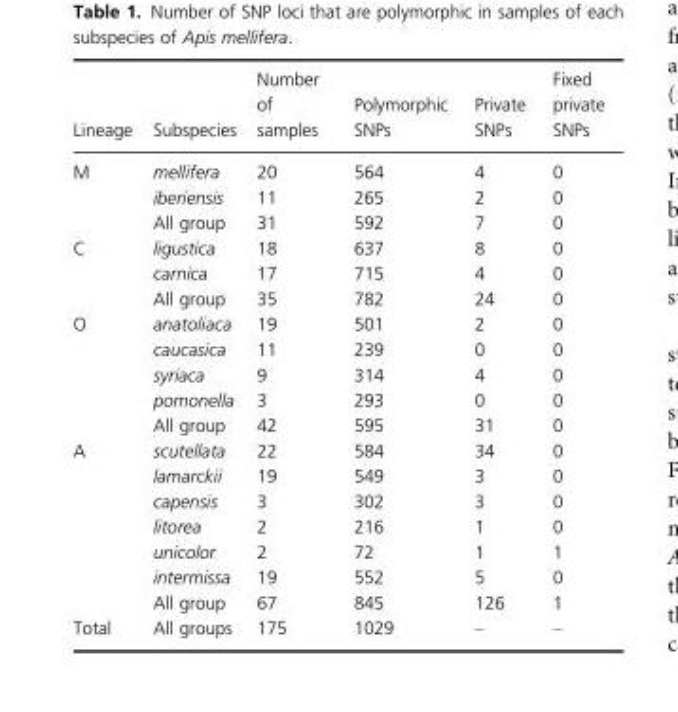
<table><thead><tr><td>Lineage</td><td>Subspecies</td><td>Number of samples</td><td>Polymorphic SNPs</td><td>Private SNPs</td><td>Fixed private SNPs</td></tr></thead><tbody><tr><td rowspan="3">M</td><td>mellifera</td><td>20</td><td>564</td><td>4</td><td>0</td></tr><tr><td>iberiensis</td><td>11</td><td>265</td><td>2</td><td>0</td></tr><tr><td>All group</td><td>31</td><td>592</td><td>7</td><td>0</td></tr><tr><td rowspan="3">C</td><td>ligustica</td><td>18</td><td>637</td><td>8</td><td>0</td></tr><tr><td>carnica</td><td>17</td><td>715</td><td>4</td><td>0</td></tr><tr><td>All group</td><td>35</td><td>782</td><td>24</td><td>0</td></tr><tr><td rowspan="5">O</td><td>anatoliaca</td><td>19</td><td>501</td><td>2</td><td>0</td></tr><tr><td>caucasica</td><td>11</td><td>239</td><td>0</td><td>0</td></tr><tr><td>syriaca</td><td>9</td><td>314</td><td>4</td><td>0</td></tr><tr><td>pomonella</td><td>3</td><td>293</td><td>0</td><td>0</td></tr><tr><td>All group</td><td>42</td><td>595</td><td>31</td><td>0</td></tr><tr><td rowspan="7">A</td><td>scutellata</td><td>22</td><td>584</td><td>34</td><td>0</td></tr><tr><td>lamarckii</td><td>19</td><td>549</td><td>3</td><td>0</td></tr><tr><td>capensis</td><td>3</td><td>302</td><td>3</td><td>0</td></tr><tr><td>litorea</td><td>2</td><td>216</td><td>1</td><td>0</td></tr><tr><td>unicolor</td><td>2</td><td>72</td><td>1</td><td>1</td></tr><tr><td>intermissa</td><td>19</td><td>552</td><td>5</td><td>0</td></tr><tr><td>All group</td><td>67</td><td>845</td><td>126</td><td>1</td></tr><tr><td>Total</td><td>All groups</td><td>175</td><td>1029</td><td>–</td><td>–</td></tr></tbody></table>